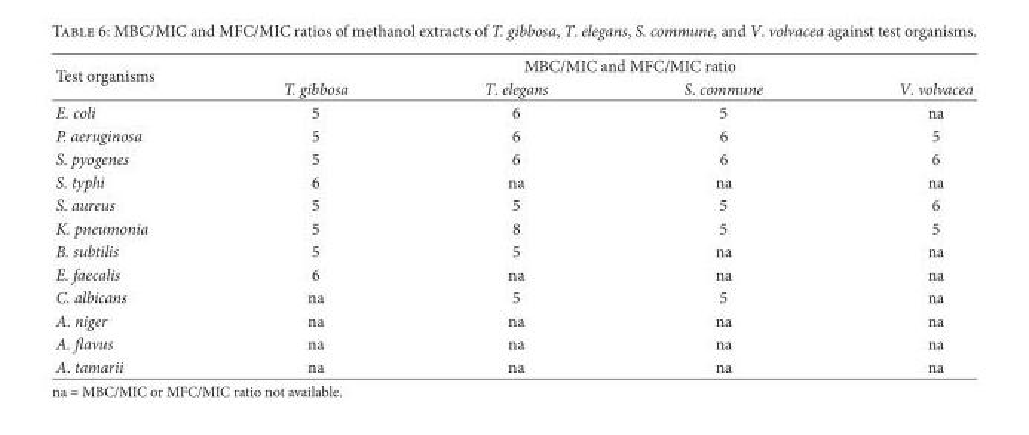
<table><thead><tr><td rowspan="2">Test organisms</td><td colspan="4">MBC/MIC and MFC/MIC ratio</td></tr><tr><td>T. gibbosa</td><td>T. elegans</td><td>S. commune</td><td>V. volvacea</td></tr></thead><tbody><tr><td>E. coli</td><td>5</td><td>6</td><td>5</td><td>na</td></tr><tr><td>P. aeruginosa</td><td>5</td><td>6</td><td>6</td><td>5</td></tr><tr><td>S. pyogenes</td><td>5</td><td>6</td><td>6</td><td>6</td></tr><tr><td>S. typhi</td><td>6</td><td>na</td><td>na</td><td>na</td></tr><tr><td>S. aureus</td><td>5</td><td>5</td><td>5</td><td>6</td></tr><tr><td>K. pneumonia</td><td>5</td><td>8</td><td>5</td><td>5</td></tr><tr><td>B. subtilis</td><td>5</td><td>5</td><td>na</td><td>na</td></tr><tr><td>E. faecalis</td><td>6</td><td>na</td><td>na</td><td>na</td></tr><tr><td>C. albicans</td><td>na</td><td>5</td><td>5</td><td>na</td></tr><tr><td>A. niger</td><td>na</td><td>na</td><td>na</td><td>na</td></tr><tr><td>A. flavus</td><td>na</td><td>na</td><td>na</td><td>na</td></tr><tr><td>A. tamarii</td><td>na</td><td>na</td><td>na</td><td>na</td></tr></tbody></table>